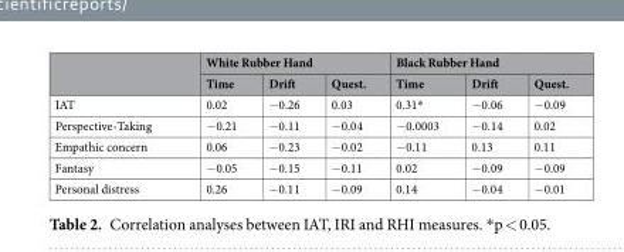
<table><thead><tr><td rowspan="2"></td><td colspan="3">White Rubber Hand</td><td colspan="3">Black Rubber Hand</td></tr><tr><td>Time</td><td>Drift</td><td>Quest.</td><td>Time</td><td>Drift</td><td>Quest.</td></tr></thead><tbody><tr><td>IAT</td><td>0.02</td><td>−0.26</td><td>0.03</td><td>0.31*</td><td>−0.06</td><td>−0.09</td></tr><tr><td>Perspective-Taking</td><td>−0.21</td><td>−0.11</td><td>−0.04</td><td>−0.0003</td><td>−0.14</td><td>0.02</td></tr><tr><td>Empathic concern</td><td>0.06</td><td>−0.23</td><td>−0.02</td><td>−0.11</td><td>0.13</td><td>0.11</td></tr><tr><td>Fantasy</td><td>−0.05</td><td>−0.15</td><td>−0.11</td><td>0.02</td><td>−0.09</td><td>−0.09</td></tr><tr><td>Personal distress</td><td>0.26</td><td>−0.11</td><td>−0.09</td><td>0.14</td><td>−0.04</td><td>−0.01</td></tr></tbody></table>